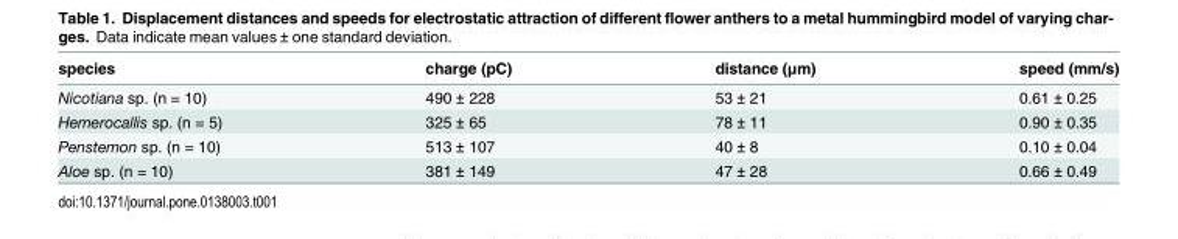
<table><thead><tr><td>species</td><td>charge (pC)</td><td>distance (μm)</td><td>speed (mm/s)</td></tr></thead><tbody><tr><td>Nicotiana sp. (n = 10)</td><td>490 ± 228</td><td>53 ± 21</td><td>0.61 ± 0.25</td></tr><tr><td>Hemerocallis sp. (n = 5)</td><td>325 ± 65</td><td>78 ± 11</td><td>0.90 ± 0.35</td></tr><tr><td>Penstemon sp. (n = 10)</td><td>513 ± 107</td><td>40 ± 8</td><td>0.10 ± 0.04</td></tr><tr><td>Aloe sp. (n = 10)</td><td>381 ± 149</td><td>47 ± 28</td><td>0.66 ± 0.49</td></tr></tbody></table>